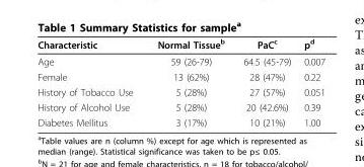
<table><thead><tr><td>Characteristic</td><td>Normal Tissue<sup>b</sup></td><td>PaC<sup>c</sup></td><td>p<sup>d</sup></td></tr></thead><tbody><tr><td>Age</td><td>59 (26-79)</td><td>64.5 (45-79)</td><td>0.007</td></tr><tr><td>Female</td><td>13 (62%)</td><td>28 (47%)</td><td>0.22</td></tr><tr><td>History of Tobacco Use</td><td>5 (28%)</td><td>27 (57%)</td><td>0.051</td></tr><tr><td>History of Alcohol Use</td><td>5 (28%)</td><td>20 (42.6%)</td><td>0.39</td></tr><tr><td>Diabetes Mellitus</td><td>3 (17%)</td><td>10 (21%)</td><td>1.00</td></tr></tbody></table>